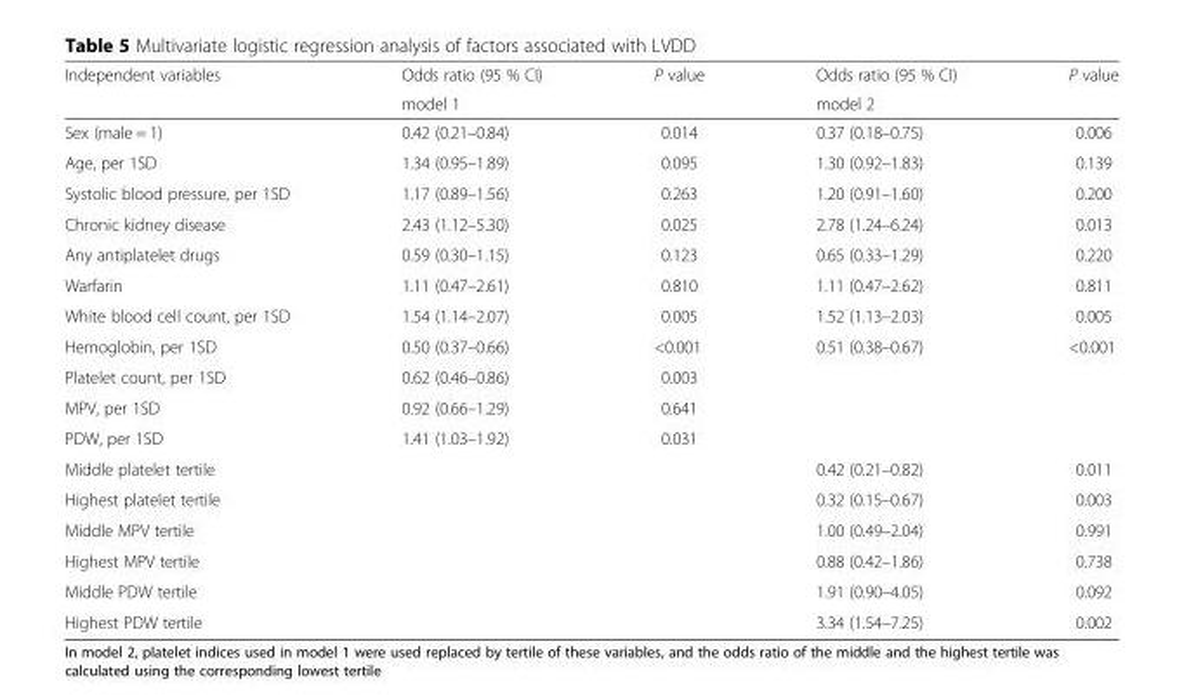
<table><thead><tr><td rowspan="2">Independent variables</td><td>Odds ratio (95 % CI)</td><td>P value</td><td>Odds ratio (95 % CI)</td><td>P value</td></tr><tr><td colspan="2">model 1</td><td colspan="2">model 2</td></tr></thead><tbody><tr><td>Sex (male = 1)</td><td>0.42 (0.21–0.84)</td><td>0.014</td><td>0.37 (0.18–0.75)</td><td>0.006</td></tr><tr><td>Age, per 1SD</td><td>1.34 (0.95–1.89)</td><td>0.095</td><td>1.30 (0.92–1.83)</td><td>0.139</td></tr><tr><td>Systolic blood pressure, per 1SD</td><td>1.17 (0.89–1.56)</td><td>0.263</td><td>1.20 (0.91–1.60)</td><td>0.200</td></tr><tr><td>Chronic kidney disease</td><td>2.43 (1.12–5.30)</td><td>0.025</td><td>2.78 (1.24–6.24)</td><td>0.013</td></tr><tr><td>Any antiplatelet drugs</td><td>0.59 (0.30–1.15)</td><td>0.123</td><td>0.65 (0.33–1.29)</td><td>0.220</td></tr><tr><td>Warfarin</td><td>1.11 (0.47–2.61)</td><td>0.810</td><td>1.11 (0.47–2.62)</td><td>0.811</td></tr><tr><td>White blood cell count, per 1SD</td><td>1.54 (1.14–2.07)</td><td>0.005</td><td>1.52 (1.13–2.03)</td><td>0.005</td></tr><tr><td>Hemoglobin, per 1SD</td><td>0.50 (0.37–0.66)</td><td>&lt;0.001</td><td>0.51 (0.38–0.67)</td><td>&lt;0.001</td></tr><tr><td>Platelet count, per 1SD</td><td>0.62 (0.46–0.86)</td><td>0.003</td><td></td><td></td></tr><tr><td>MPV, per 1SD</td><td>0.92 (0.66–1.29)</td><td>0.641</td><td></td><td></td></tr><tr><td>PDW, per 1SD</td><td>1.41 (1.03–1.92)</td><td>0.031</td><td></td><td></td></tr><tr><td>Middle platelet tertile</td><td></td><td></td><td>0.42 (0.21–0.82)</td><td>0.011</td></tr><tr><td>Highest platelet tertile</td><td></td><td></td><td>0.32 (0.15–0.67)</td><td>0.003</td></tr><tr><td>Middle MPV tertile</td><td></td><td></td><td>1.00 (0.49–2.04)</td><td>0.991</td></tr><tr><td>Highest MPV tertile</td><td></td><td></td><td>0.88 (0.42–1.86)</td><td>0.738</td></tr><tr><td>Middle PDW tertile</td><td></td><td></td><td>1.91 (0.90–4.05)</td><td>0.092</td></tr><tr><td>Highest PDW tertile</td><td></td><td></td><td>3.34 (1.54–7.25)</td><td>0.002</td></tr></tbody></table>